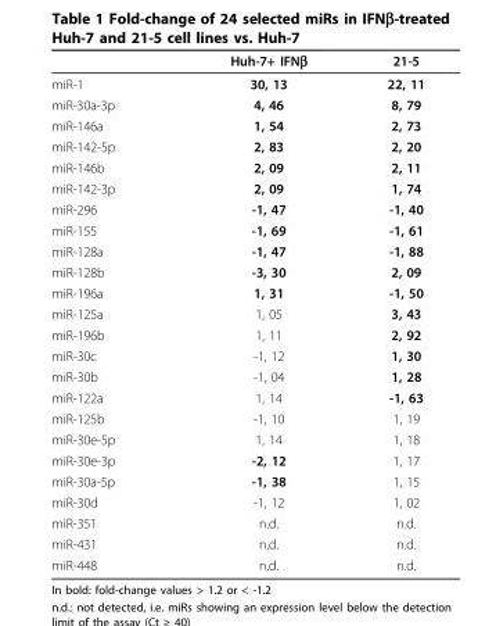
<table><thead><tr><td></td><td>Huh-7+ IFNβ</td><td>21-5</td></tr></thead><tbody><tr><td>miR-1</td><td>30, 13</td><td>22, 11</td></tr><tr><td>miR-30a-3p</td><td>4, 46</td><td>8, 79</td></tr><tr><td>miR-146a</td><td>1, 54</td><td>2, 73</td></tr><tr><td>miR-142-5p</td><td>2, 83</td><td>2, 20</td></tr><tr><td>miR-146b</td><td>2, 09</td><td>2, 11</td></tr><tr><td>miR-142-3p</td><td>2, 09</td><td>1, 74</td></tr><tr><td>miR-296</td><td>-1, 47</td><td>-1, 40</td></tr><tr><td>miR-155</td><td>-1, 69</td><td>-1, 61</td></tr><tr><td>miR-128a</td><td>-1, 47</td><td>-1, 88</td></tr><tr><td>miR-128b</td><td>-3, 30</td><td>2, 09</td></tr><tr><td>miR-196a</td><td>1, 31</td><td>-1, 50</td></tr><tr><td>miR-125a</td><td>1, 05</td><td>3, 43</td></tr><tr><td>miR-196b</td><td>1, 11</td><td>2, 92</td></tr><tr><td>miR-30c</td><td>-1, 12</td><td>1, 30</td></tr><tr><td>miR-30b</td><td>-1, 04</td><td>1, 28</td></tr><tr><td>miR-122a</td><td>1, 14</td><td>-1, 63</td></tr><tr><td>miR-125b</td><td>-1, 10</td><td>1, 19</td></tr><tr><td>miR-30e-5p</td><td>1, 14</td><td>1, 18</td></tr><tr><td>miR-30e-3p</td><td>-2, 12</td><td>1, 17</td></tr><tr><td>miR-30a-5p</td><td>-1, 38</td><td>1, 15</td></tr><tr><td>miR-30d</td><td>-1, 12</td><td>1, 02</td></tr><tr><td>miR-351</td><td>n.d.</td><td>n.d.</td></tr><tr><td>miR-431</td><td>n.d.</td><td>n.d.</td></tr><tr><td>miR-448</td><td>n.d.</td><td>n.d.</td></tr></tbody></table>